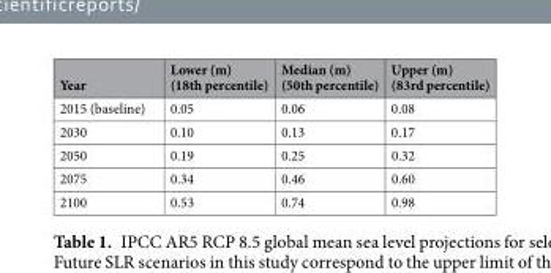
<table><thead><tr><td>Year</td><td>Lower (m) (18th percentile)</td><td>Median (m) (50th percentile)</td><td>Upper (m) (83rd percentile)</td></tr></thead><tbody><tr><td>2015 (baseline)</td><td>0.05</td><td>0.06</td><td>0.08</td></tr><tr><td>2030</td><td>0.10</td><td>0.13</td><td>0.17</td></tr><tr><td>2050</td><td>0.19</td><td>0.25</td><td>0.32</td></tr><tr><td>2075</td><td>0.34</td><td>0.46</td><td>0.60</td></tr><tr><td>2100</td><td>0.53</td><td>0.74</td><td>0.98</td></tr></tbody></table>